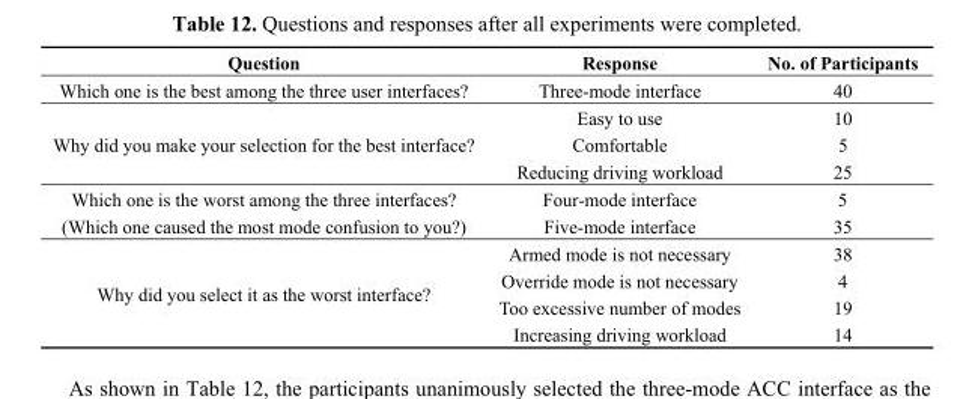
<table><thead><tr><td>Question</td><td>Response</td><td>No. of Participants</td></tr></thead><tbody><tr><td>Which one is the best among the three user interfaces?</td><td>Three-mode interface</td><td>40</td></tr><tr><td rowspan="3">Why did you make your selection for the best interface?</td><td>Easy to use</td><td>10</td></tr><tr><td>Comfortable</td><td>5</td></tr><tr><td>Reducing driving workload</td><td>25</td></tr><tr><td rowspan="2">Which one is the worst among the three interfaces? (Which one caused the most mode confusion to you?)</td><td>Four-mode interface</td><td>5</td></tr><tr><td>Five-mode interface</td><td>35</td></tr><tr><td rowspan="4">Why did you select it as the worst interface?</td><td>Armed mode is not necessary</td><td>38</td></tr><tr><td>Override mode is not necessary</td><td>4</td></tr><tr><td>Too excessive number of modes</td><td>19</td></tr><tr><td>Increasing driving workload</td><td>14</td></tr></tbody></table>